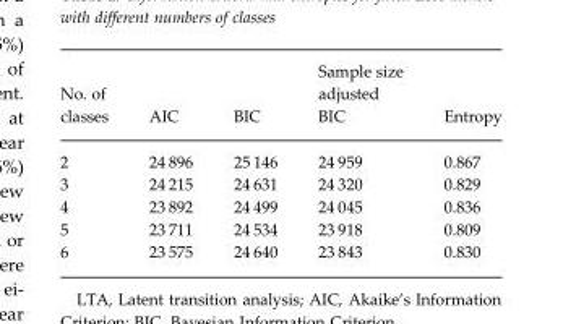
<table><thead><tr><td>No. of classes</td><td>AIC</td><td>BIC</td><td>Sample size adjusted BIC</td><td>Entropy</td></tr></thead><tbody><tr><td>2</td><td>24 896</td><td>25 146</td><td>24 959</td><td>0.867</td></tr><tr><td>3</td><td>24 215</td><td>24 631</td><td>24 320</td><td>0.829</td></tr><tr><td>4</td><td>23 892</td><td>24 499</td><td>24 045</td><td>0.836</td></tr><tr><td>5</td><td>23 711</td><td>24 534</td><td>23 918</td><td>0.809</td></tr><tr><td>6</td><td>23 575</td><td>24 640</td><td>23 843</td><td>0.830</td></tr></tbody></table>